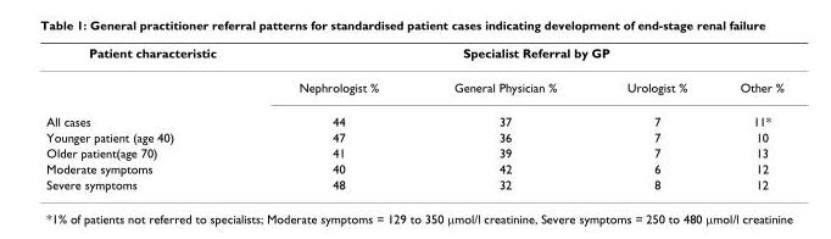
<table><thead><tr><td rowspan="2">Patient characteristic</td><td colspan="4">Specialist Referral by GP</td></tr><tr><td>Nephrologist %</td><td>General Physician %</td><td>Urologist %</td><td>Other %</td></tr></thead><tbody><tr><td>All cases</td><td>44</td><td>37</td><td>7</td><td>11*</td></tr><tr><td>Younger patient (age 40)</td><td>47</td><td>36</td><td>7</td><td>10</td></tr><tr><td>Older patient(age 70)</td><td>41</td><td>39</td><td>7</td><td>13</td></tr><tr><td>Moderate symptoms</td><td>40</td><td>42</td><td>6</td><td>12</td></tr><tr><td>Severe symptoms</td><td>48</td><td>32</td><td>8</td><td>12</td></tr></tbody></table>